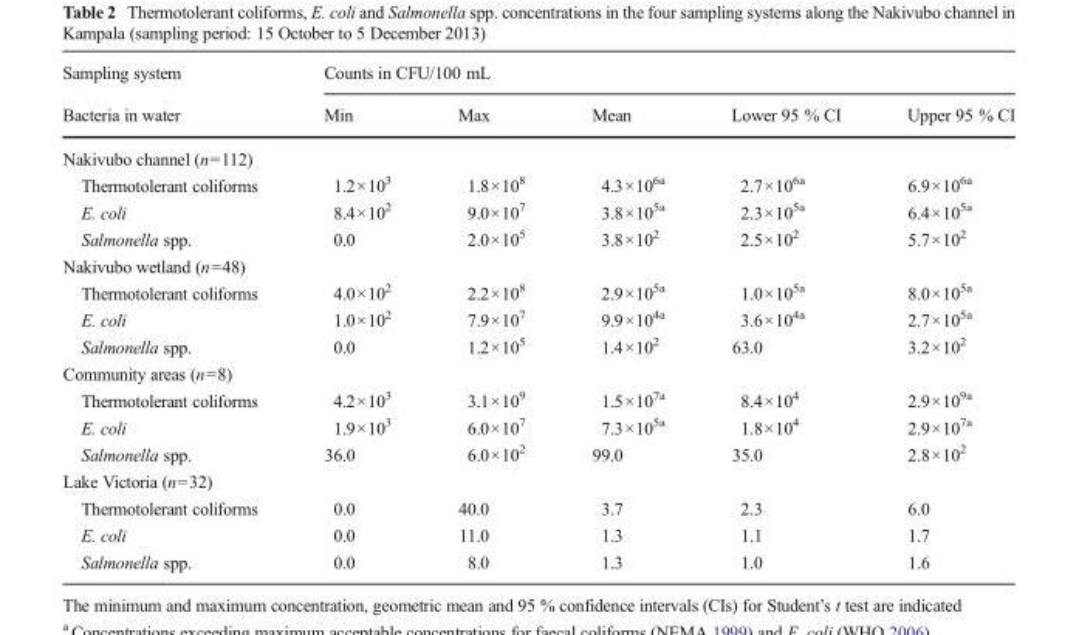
<table><thead><tr><td rowspan="2">Sampling system Bacteria in water</td><td colspan="5">Counts in CFU/100 mL</td></tr><tr><td>Min</td><td>Max</td><td>Mean</td><td>Lower 95 % CI</td><td>Upper 95 % CI</td></tr></thead><tbody><tr><td colspan="6">Nakivubo channel (n=112)</td></tr><tr><td>Thermotolerant coliforms</td><td>1.2×10<sup>3</sup></td><td>1.8×10<sup>8</sup></td><td>4.3×10<sup>6a</sup></td><td>2.7×10<sup>6a</sup></td><td>6.9×10<sup>6a</sup></td></tr><tr><td>E. coli</td><td>8.4×10<sup>2</sup></td><td>9.0×10<sup>7</sup></td><td>3.8×10<sup>5a</sup></td><td>2.3×10<sup>5a</sup></td><td>6.4×10<sup>5a</sup></td></tr><tr><td>Salmonella spp.</td><td>0.0</td><td>2.0×10<sup>5</sup></td><td>3.8×10<sup>2</sup></td><td>2.5×10<sup>2</sup></td><td>5.7×10<sup>2</sup></td></tr><tr><td colspan="6">Nakivubo wetland (n=48)</td></tr><tr><td>Thermotolerant coliforms</td><td>4.0×10<sup>2</sup></td><td>2.2×10<sup>8</sup></td><td>2.9×10<sup>5a</sup></td><td>1.0×10<sup>5a</sup></td><td>8.0×10<sup>5a</sup></td></tr><tr><td>E. coli</td><td>1.0×10<sup>2</sup></td><td>7.9×10<sup>7</sup></td><td>9.9×10<sup>4a</sup></td><td>3.6×10<sup>4a</sup></td><td>2.7×10<sup>5a</sup></td></tr><tr><td>Salmonella spp.</td><td>0.0</td><td>1.2×10<sup>5</sup></td><td>1.4×10<sup>2</sup></td><td>63.0</td><td>3.2×10<sup>2</sup></td></tr><tr><td colspan="6">Community areas (n=8)</td></tr><tr><td>Thermotolerant coliforms</td><td>4.2×10<sup>3</sup></td><td>3.1×10<sup>9</sup></td><td>1.5×10<sup>7a</sup></td><td>8.4×10<sup>4</sup></td><td>2.9×10<sup>9a</sup></td></tr><tr><td>E. coli</td><td>1.9×10<sup>3</sup></td><td>6.0×10<sup>7</sup></td><td>7.3×10<sup>5a</sup></td><td>1.8×10<sup>4</sup></td><td>2.9×10<sup>7a</sup></td></tr><tr><td>Salmonella spp.</td><td>36.0</td><td>6.0×10<sup>2</sup></td><td>99.0</td><td>35.0</td><td>2.8×10<sup>2</sup></td></tr><tr><td colspan="6">Lake Victoria (n=32)</td></tr><tr><td>Thermotolerant coliforms</td><td>0.0</td><td>40.0</td><td>3.7</td><td>2.3</td><td>6.0</td></tr><tr><td>E. coli</td><td>0.0</td><td>11.0</td><td>1.3</td><td>1.1</td><td>1.7</td></tr><tr><td>Salmonella spp.</td><td>0.0</td><td>8.0</td><td>1.3</td><td>1.0</td><td>1.6</td></tr></tbody></table>